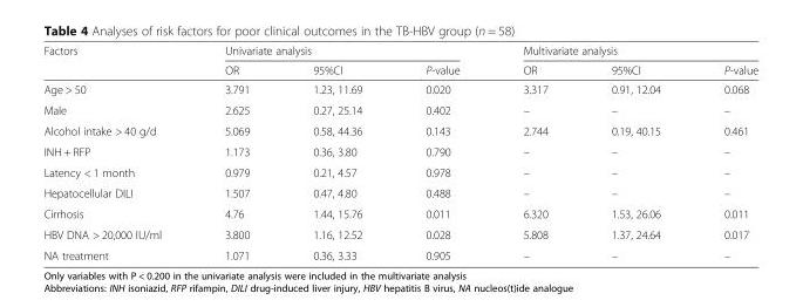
<table><thead><tr><td rowspan="2">Factors</td><td colspan="3">Univariate analysis</td><td colspan="3">Multivariate analysis</td></tr><tr><td>OR</td><td>95%CI</td><td>P-value</td><td>OR</td><td>95%CI</td><td>P-value</td></tr></thead><tbody><tr><td>Age &gt; 50</td><td>3.791</td><td>1.23, 11.69</td><td>0.020</td><td>3.317</td><td>0.91, 12.04</td><td>0.068</td></tr><tr><td>Male</td><td>2.625</td><td>0.27, 25.14</td><td>0.402</td><td>–</td><td>–</td><td>–</td></tr><tr><td>Alcohol intake &gt; 40 g/d</td><td>5.069</td><td>0.58, 44.36</td><td>0.143</td><td>2.744</td><td>0.19, 40.15</td><td>0.461</td></tr><tr><td>INH + RFP</td><td>1.173</td><td>0.36, 3.80</td><td>0.790</td><td>–</td><td>–</td><td>–</td></tr><tr><td>Latency &lt; 1 month</td><td>0.979</td><td>0.21, 4.57</td><td>0.978</td><td>–</td><td>–</td><td>–</td></tr><tr><td>Hepatocellular DILI</td><td>1.507</td><td>0.47, 4.80</td><td>0.488</td><td>–</td><td>–</td><td>–</td></tr><tr><td>Cirrhosis</td><td>4.76</td><td>1.44, 15.76</td><td>0.011</td><td>6.320</td><td>1.53, 26.06</td><td>0.011</td></tr><tr><td>HBV DNA &gt; 20,000 IU/ml</td><td>3.800</td><td>1.16, 12.52</td><td>0.028</td><td>5.808</td><td>1.37, 24.64</td><td>0.017</td></tr><tr><td>NA treatment</td><td>1.071</td><td>0.36, 3.33</td><td>0.905</td><td>–</td><td>–</td><td>–</td></tr></tbody></table>